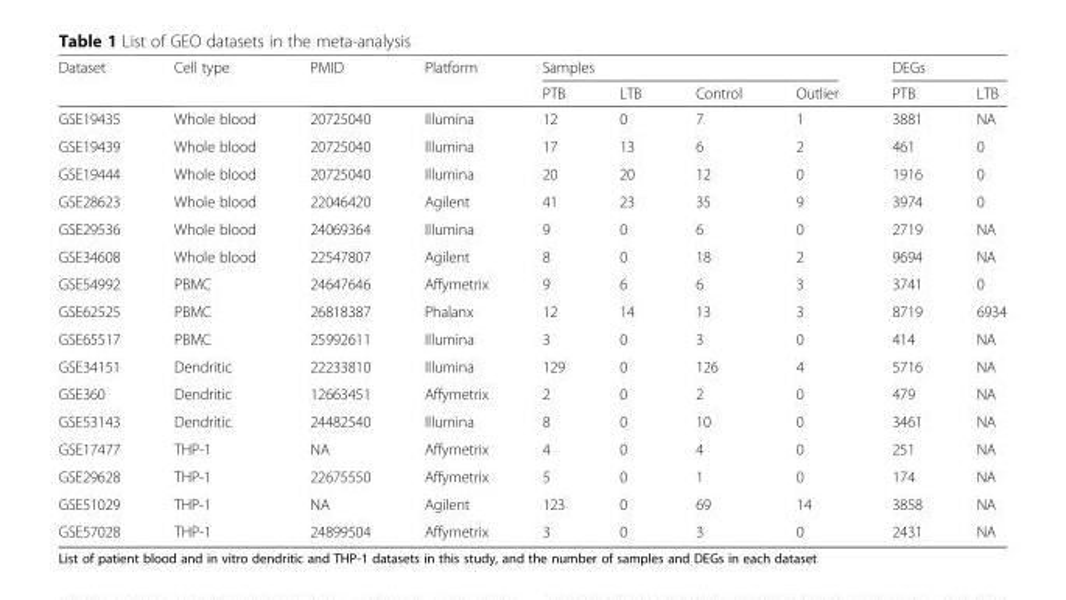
<table><thead><tr><td rowspan="2">Dataset</td><td rowspan="2">Cell type</td><td rowspan="2">PMID</td><td rowspan="2">Platform</td><td colspan="4">Samples</td><td colspan="2">DEGs</td></tr><tr><td>PTB</td><td>LTB</td><td>Control</td><td>Outlier</td><td>PTB</td><td>LTB</td></tr></thead><tbody><tr><td>GSE19435</td><td>Whole blood</td><td>20725040</td><td>Illumina</td><td>12</td><td>0</td><td>7</td><td>1</td><td>3881</td><td>NA</td></tr><tr><td>GSE19439</td><td>Whole blood</td><td>20725040</td><td>Illumina</td><td>17</td><td>13</td><td>6</td><td>2</td><td>461</td><td>0</td></tr><tr><td>GSE19444</td><td>Whole blood</td><td>20725040</td><td>Illumina</td><td>20</td><td>20</td><td>12</td><td>0</td><td>1916</td><td>0</td></tr><tr><td>GSE28623</td><td>Whole blood</td><td>22046420</td><td>Agilent</td><td>41</td><td>23</td><td>35</td><td>9</td><td>3974</td><td>0</td></tr><tr><td>GSE29536</td><td>Whole blood</td><td>24069364</td><td>Illumina</td><td>9</td><td>0</td><td>6</td><td>0</td><td>2719</td><td>NA</td></tr><tr><td>GSE34608</td><td>Whole blood</td><td>22547807</td><td>Agilent</td><td>8</td><td>0</td><td>18</td><td>2</td><td>9694</td><td>NA</td></tr><tr><td>GSE54992</td><td>PBMC</td><td>24647646</td><td>Affymetrix</td><td>9</td><td>6</td><td>6</td><td>3</td><td>3741</td><td>0</td></tr><tr><td>GSE62525</td><td>PBMC</td><td>26818387</td><td>Phalanx</td><td>12</td><td>14</td><td>13</td><td>3</td><td>8719</td><td>6934</td></tr><tr><td>GSE65517</td><td>PBMC</td><td>25992611</td><td>Illumina</td><td>3</td><td>0</td><td>3</td><td>0</td><td>414</td><td>NA</td></tr><tr><td>GSE34151</td><td>Dendritic</td><td>22233810</td><td>Illumina</td><td>129</td><td>0</td><td>126</td><td>4</td><td>5716</td><td>NA</td></tr><tr><td>GSE360</td><td>Dendritic</td><td>12663451</td><td>Affymetrix</td><td>2</td><td>0</td><td>2</td><td>0</td><td>479</td><td>NA</td></tr><tr><td>GSE53143</td><td>Dendritic</td><td>24482540</td><td>Illumina</td><td>8</td><td>0</td><td>10</td><td>0</td><td>3461</td><td>NA</td></tr><tr><td>GSE17477</td><td>THP-1</td><td>NA</td><td>Affymetrix</td><td>4</td><td>0</td><td>4</td><td>0</td><td>251</td><td>NA</td></tr><tr><td>GSE29628</td><td>THP-1</td><td>22675550</td><td>Affymetrix</td><td>5</td><td>0</td><td>1</td><td>0</td><td>174</td><td>NA</td></tr><tr><td>GSE51029</td><td>THP-1</td><td>NA</td><td>Agilent</td><td>123</td><td>0</td><td>69</td><td>14</td><td>3858</td><td>NA</td></tr><tr><td>GSE57028</td><td>THP-1</td><td>24899504</td><td>Affymetrix</td><td>3</td><td>0</td><td>3</td><td>0</td><td>2431</td><td>NA</td></tr></tbody></table>